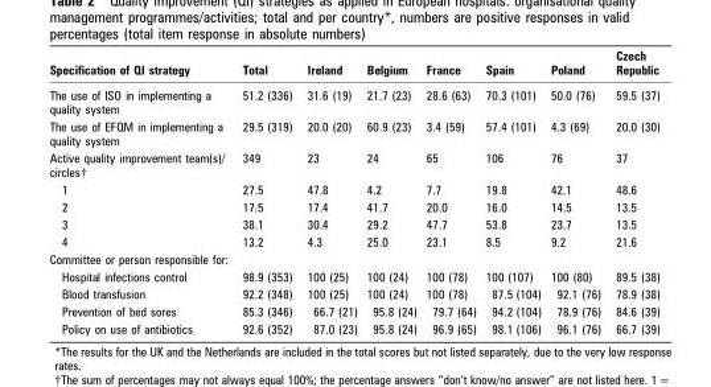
<table><thead><tr><td>Specification of QI strategy</td><td>Total</td><td>Ireland</td><td>Belgium</td><td>France</td><td>Spain</td><td>Poland</td><td>Czech Republic</td></tr></thead><tbody><tr><td>The use of ISO in implementing a quality system</td><td>51.2 (336)</td><td>31.6 (19)</td><td>21.7 (23)</td><td>28.6 (63)</td><td>70.3 (101)</td><td>50.0 (76)</td><td>59.5 (37)</td></tr><tr><td>The use of EFQM in implementing a quality system</td><td>29.5 (319)</td><td>20.0 (20)</td><td>60.9 (23)</td><td>3.4 (59)</td><td>57.4 (101)</td><td>4.3 (69)</td><td>20.0 (30)</td></tr><tr><td>Active quality improvement team(s)/ circles†</td><td>349</td><td>23</td><td>24</td><td>65</td><td>106</td><td>76</td><td>37</td></tr><tr><td>1</td><td>27.5</td><td>47.8</td><td>4.2</td><td>7.7</td><td>19.8</td><td>42.1</td><td>48.6</td></tr><tr><td>2</td><td>17.5</td><td>17.4</td><td>41.7</td><td>20.0</td><td>16.0</td><td>14.5</td><td>13.5</td></tr><tr><td>3</td><td>38.1</td><td>30.4</td><td>29.2</td><td>47.7</td><td>53.8</td><td>23.7</td><td>13.5</td></tr><tr><td>4</td><td>13.2</td><td>4.3</td><td>25.0</td><td>23.1</td><td>8.5</td><td>9.2</td><td>21.6</td></tr><tr><td colspan="8">Committee or person responsible for:</td></tr><tr><td>Hospital infections control</td><td>98.9 (353)</td><td>100 (25)</td><td>100 (24)</td><td>100 (78)</td><td>100 (107)</td><td>100 (80)</td><td>89.5 (38)</td></tr><tr><td>Blood transfusion</td><td>92.2 (348)</td><td>100 (25)</td><td>100 (24)</td><td>100 (78)</td><td>87.5 (104)</td><td>92.1 (76)</td><td>78.9 (38)</td></tr><tr><td>Prevention of bed sores</td><td>85.3 (346)</td><td>66.7 (21)</td><td>95.8 (24)</td><td>79.7 (64)</td><td>94.2 (104)</td><td>78.9 (76)</td><td>84.6 (39)</td></tr><tr><td>Policy on use of antibiotics</td><td>92.6 (352)</td><td>87.0 (23)</td><td>95.8 (24)</td><td>96.9 (65)</td><td>98.1 (106)</td><td>96.1 (76)</td><td>66.7 (39)</td></tr></tbody></table>